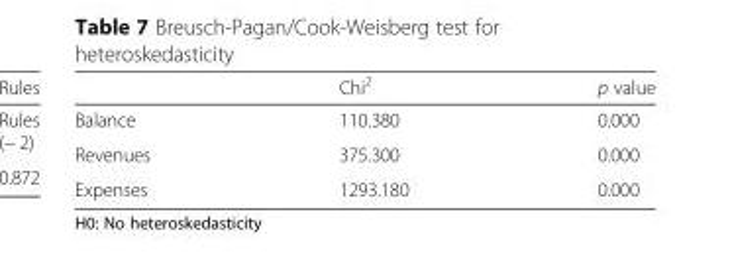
<table><thead><tr><td></td><td>Chi<sup>2</sup></td><td>p value</td></tr></thead><tbody><tr><td>Balance</td><td>110.380</td><td>0.000</td></tr><tr><td>Revenues</td><td>375.300</td><td>0.000</td></tr><tr><td>Expenses</td><td>1293.180</td><td>0.000</td></tr></tbody></table>